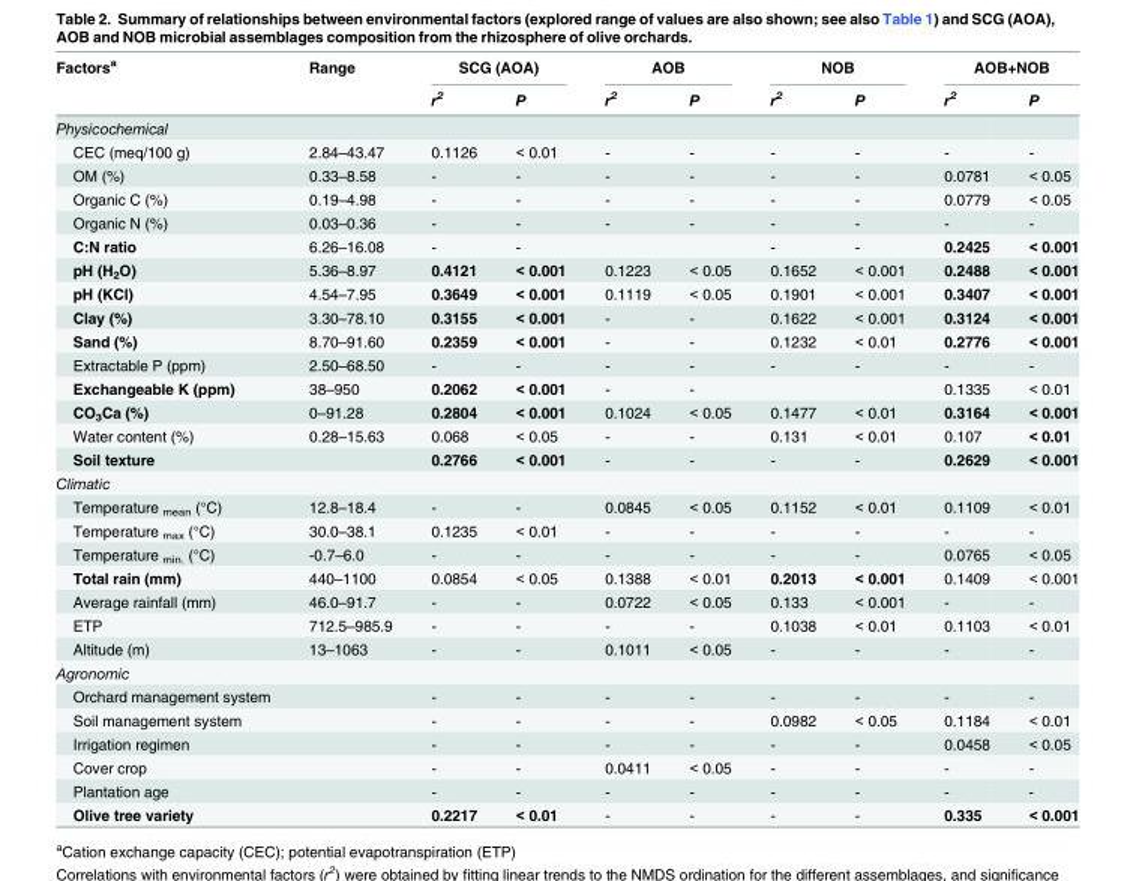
<table><thead><tr><td rowspan="2">Factors<sup>a</sup></td><td rowspan="2">Range</td><td colspan="2">SCG (AOA)</td><td colspan="2">AOB</td><td colspan="2">NOB</td><td colspan="2">AOB+NOB</td></tr><tr><td>r<sup>2</sup></td><td>P</td><td>r<sup>2</sup></td><td>P</td><td>r<sup>2</sup></td><td>P</td><td>r<sup>2</sup></td><td>P</td></tr></thead><tbody><tr><td colspan="10">Physicochemical</td></tr><tr><td>CEC (meq/100 g)</td><td>2.84–43.47</td><td>0.1126</td><td>&lt; 0.01</td><td>-</td><td>-</td><td>-</td><td>-</td><td>-</td><td>-</td></tr><tr><td>OM (%)</td><td>0.33–8.58</td><td>-</td><td>-</td><td>-</td><td>-</td><td>-</td><td>-</td><td>0.0781</td><td>&lt; 0.05</td></tr><tr><td>Organic C (%)</td><td>0.19–4.98</td><td>-</td><td>-</td><td>-</td><td>-</td><td>-</td><td>-</td><td>0.0779</td><td>&lt; 0.05</td></tr><tr><td>Organic N (%)</td><td>0.03–0.36</td><td>-</td><td>-</td><td>-</td><td>-</td><td>-</td><td>-</td><td>-</td><td>-</td></tr><tr><td>C:N ratio</td><td>6.26–16.08</td><td>-</td><td>-</td><td></td><td></td><td>-</td><td>-</td><td>0.2425</td><td>&lt; 0.001</td></tr><tr><td>pH (H<sub>2</sub>O)</td><td>5.36–8.97</td><td>0.4121</td><td>&lt; 0.001</td><td>0.1223</td><td>&lt; 0.05</td><td>0.1652</td><td>&lt; 0.001</td><td>0.2488</td><td>&lt; 0.001</td></tr><tr><td>pH (KCl)</td><td>4.54–7.95</td><td>0.3649</td><td>&lt; 0.001</td><td>0.1119</td><td>&lt; 0.05</td><td>0.1901</td><td>&lt; 0.001</td><td>0.3407</td><td>&lt; 0.001</td></tr><tr><td>Clay (%)</td><td>3.30–78.10</td><td>0.3155</td><td>&lt; 0.001</td><td>-</td><td>-</td><td>0.1622</td><td>&lt; 0.001</td><td>0.3124</td><td>&lt; 0.001</td></tr><tr><td>Sand (%)</td><td>8.70–91.60</td><td>0.2359</td><td>&lt; 0.001</td><td>-</td><td>-</td><td>0.1232</td><td>&lt; 0.01</td><td>0.2776</td><td>&lt; 0.001</td></tr><tr><td>Extractable P (ppm)</td><td>2.50–68.50</td><td>-</td><td>-</td><td>-</td><td>-</td><td>-</td><td>-</td><td>-</td><td>-</td></tr><tr><td>Exchangeable K (ppm)</td><td>38–950</td><td>0.2062</td><td>&lt; 0.001</td><td>-</td><td>-</td><td></td><td></td><td>0.1335</td><td>&lt; 0.01</td></tr><tr><td>CO<sub>3</sub>Ca (%)</td><td>0–91.28</td><td>0.2804</td><td>&lt; 0.001</td><td>0.1024</td><td>&lt; 0.05</td><td>0.1477</td><td>&lt; 0.01</td><td>0.3164</td><td>&lt; 0.001</td></tr><tr><td>Water content (%)</td><td>0.28–15.63</td><td>0.068</td><td>&lt; 0.05</td><td>-</td><td>-</td><td>0.131</td><td>&lt; 0.01</td><td>0.107</td><td>&lt; 0.01</td></tr><tr><td>Soil texture</td><td></td><td>0.2766</td><td>&lt; 0.001</td><td>-</td><td>-</td><td>-</td><td>-</td><td>0.2629</td><td>&lt; 0.001</td></tr><tr><td colspan="10">Climatic</td></tr><tr><td>Temperature <sub>mean</sub> (°C)</td><td>12.8–18.4</td><td>-</td><td>-</td><td>0.0845</td><td>&lt; 0.05</td><td>0.1152</td><td>&lt; 0.01</td><td>0.1109</td><td>&lt; 0.01</td></tr><tr><td>Temperature <sub>max</sub> (°C)</td><td>30.0–38.1</td><td>0.1235</td><td>&lt; 0.01</td><td>-</td><td>-</td><td>-</td><td>-</td><td>-</td><td>-</td></tr><tr><td>Temperature <sub>min.</sub> (°C)</td><td>-0.7–6.0</td><td>-</td><td>-</td><td>-</td><td>-</td><td>-</td><td>-</td><td>0.0765</td><td>&lt; 0.05</td></tr><tr><td>Total rain (mm)</td><td>440–1100</td><td>0.0854</td><td>&lt; 0.05</td><td>0.1388</td><td>&lt; 0.01</td><td>0.2013</td><td>&lt; 0.001</td><td>0.1409</td><td>&lt; 0.001</td></tr><tr><td>Average rainfall (mm)</td><td>46.0–91.7</td><td>-</td><td>-</td><td>0.0722</td><td>&lt; 0.05</td><td>0.133</td><td>&lt; 0.001</td><td>-</td><td>-</td></tr><tr><td>ETP</td><td>712.5–985.9</td><td>-</td><td>-</td><td>-</td><td>-</td><td>0.1038</td><td>&lt; 0.01</td><td>0.1103</td><td>&lt; 0.01</td></tr><tr><td>Altitude (m)</td><td>13–1063</td><td>-</td><td>-</td><td>0.1011</td><td>&lt; 0.05</td><td>-</td><td>-</td><td>-</td><td>-</td></tr><tr><td colspan="10">Agronomic</td></tr><tr><td>Orchard management system</td><td></td><td>-</td><td>-</td><td>-</td><td>-</td><td>-</td><td>-</td><td>-</td><td>-</td></tr><tr><td>Soil management system</td><td></td><td>-</td><td>-</td><td>-</td><td>-</td><td>0.0982</td><td>&lt; 0.05</td><td>0.1184</td><td>&lt; 0.01</td></tr><tr><td>Irrigation regimen</td><td></td><td>-</td><td>-</td><td>-</td><td>-</td><td>-</td><td>-</td><td>0.0458</td><td>&lt; 0.05</td></tr><tr><td>Cover crop</td><td></td><td>-</td><td>-</td><td>0.0411</td><td>&lt; 0.05</td><td>-</td><td>-</td><td>-</td><td>-</td></tr><tr><td>Plantation age</td><td></td><td>-</td><td>-</td><td>-</td><td>-</td><td>-</td><td>-</td><td>-</td><td>-</td></tr><tr><td>Olive tree variety</td><td></td><td>0.2217</td><td>&lt; 0.01</td><td>-</td><td>-</td><td>-</td><td>-</td><td>0.335</td><td>&lt; 0.001</td></tr></tbody></table>